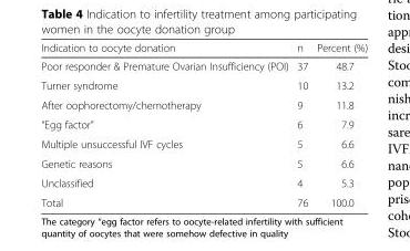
<table><thead><tr><td>Indication to oocyte donation</td><td>n</td><td>Percent (%)</td></tr></thead><tbody><tr><td>Poor responder &amp; Premature Ovarian Insufficiency (POI)</td><td>37</td><td>48.7</td></tr><tr><td>Turner syndrome</td><td>10</td><td>13.2</td></tr><tr><td>After oophorectomy/chemotherapy</td><td>9</td><td>11.8</td></tr><tr><td>“Egg factor”</td><td>6</td><td>7.9</td></tr><tr><td>Multiple unsuccessful IVF cycles</td><td>5</td><td>6.6</td></tr><tr><td>Genetic reasons</td><td>5</td><td>6.6</td></tr><tr><td>Unclassified</td><td>4</td><td>5.3</td></tr><tr><td>Total</td><td>76</td><td>100.0</td></tr></tbody></table>